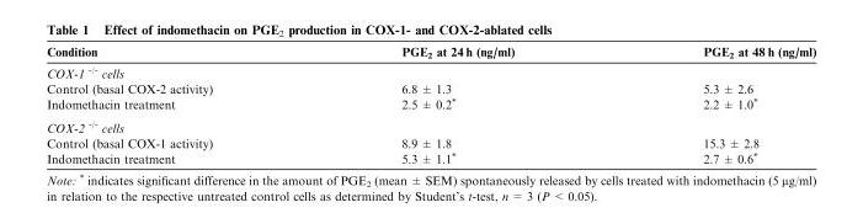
<table><thead><tr><td>Condition</td><td>PGE2 at 24 h (ng/ml)</td><td>PGE2 at 48 h (ng/ml)</td></tr></thead><tbody><tr><td colspan="3">COX-1 -/- cells</td></tr><tr><td>Control (basal COX-2 activity)</td><td>6.8 ± 1.3</td><td>5.3 ± 2.6</td></tr><tr><td>Indomethacin treatment</td><td>2.5 ± 0.2*</td><td>2.2 ± 1.0*</td></tr><tr><td colspan="3">COX-2 -/- cells</td></tr><tr><td>Control (basal COX-1 activity)</td><td>8.9 ± 1.8</td><td>15.3 ± 2.8</td></tr><tr><td>Indomethacin treatment</td><td>5.3 ± 1.1*</td><td>2.7 ± 0.6*</td></tr></tbody></table>